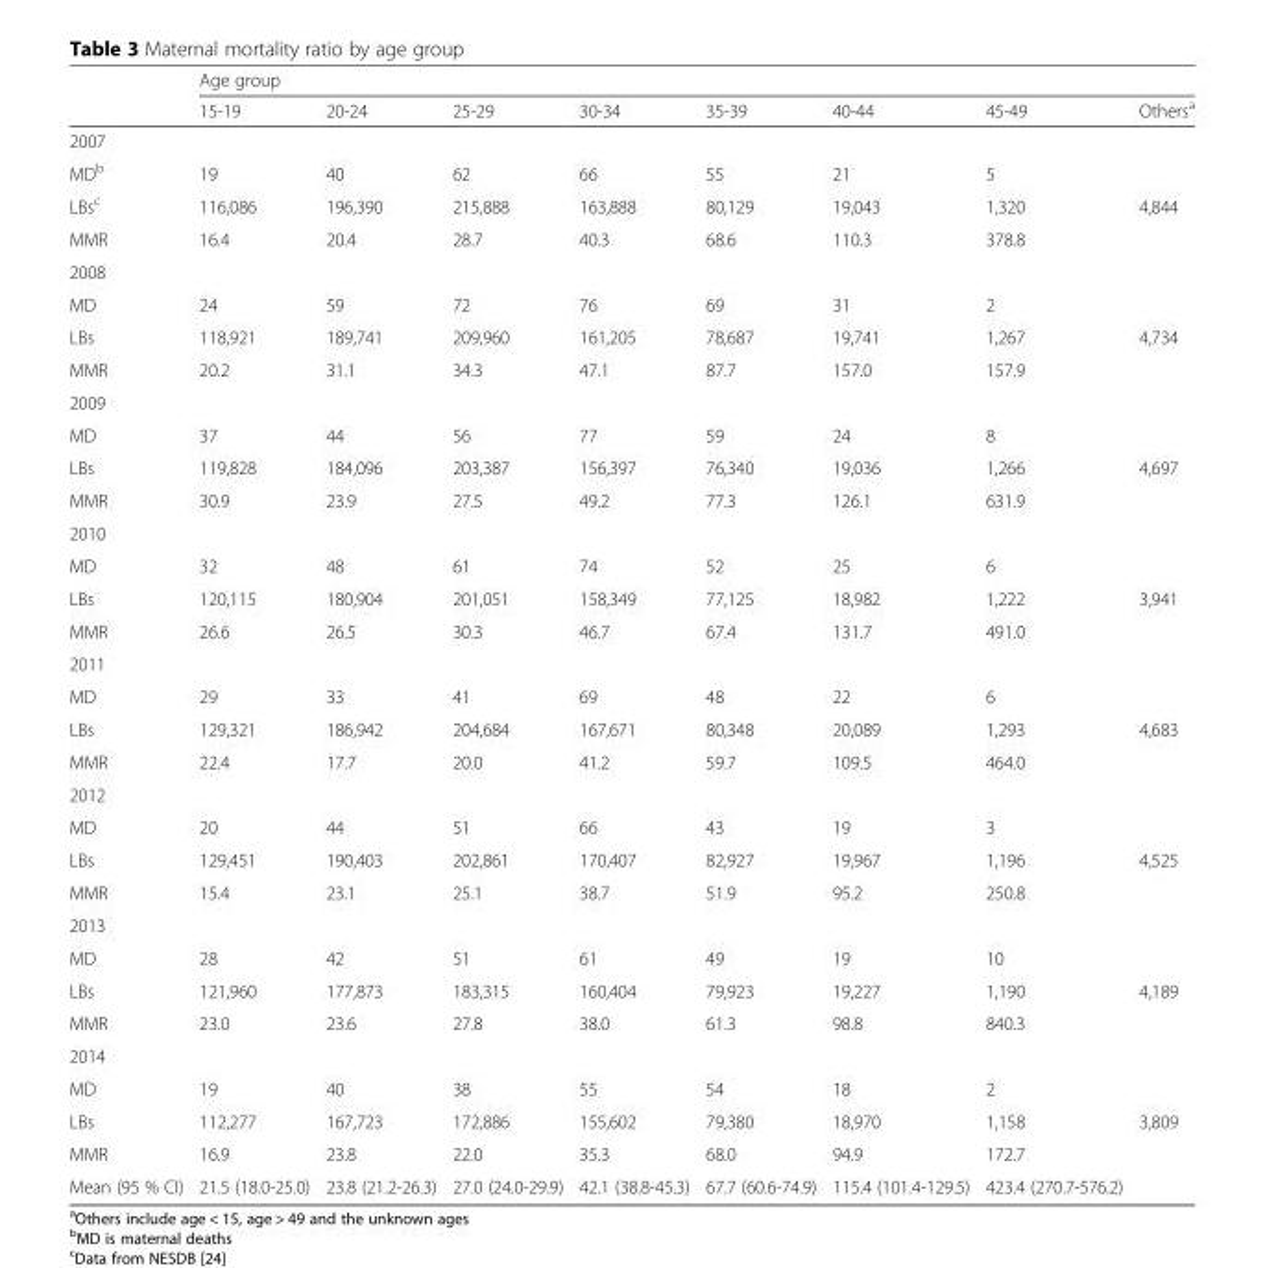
<table><thead><tr><td rowspan="2"></td><td colspan="8">Age group</td></tr><tr><td>15-19</td><td>20-24</td><td>25-29</td><td>30-34</td><td>35-39</td><td>40-44</td><td>45-49</td><td>Others<sup>a</sup></td></tr></thead><tbody><tr><td colspan="9">2007</td></tr><tr><td>MD<sup>b</sup></td><td>19</td><td>40</td><td>62</td><td>66</td><td>55</td><td>21</td><td>5</td><td></td></tr><tr><td>LBs<sup>c</sup></td><td>116,086</td><td>196,390</td><td>215,888</td><td>163,888</td><td>80,129</td><td>19,043</td><td>1,320</td><td>4,844</td></tr><tr><td>MMR</td><td>16.4</td><td>20.4</td><td>28.7</td><td>40.3</td><td>68.6</td><td>110.3</td><td>378.8</td><td></td></tr><tr><td colspan="9">2008</td></tr><tr><td>MD</td><td>24</td><td>59</td><td>72</td><td>76</td><td>69</td><td>31</td><td>2</td><td></td></tr><tr><td>LBs</td><td>118,921</td><td>189,741</td><td>209,960</td><td>161,205</td><td>78,687</td><td>19,741</td><td>1,267</td><td>4,734</td></tr><tr><td>MMR</td><td>20.2</td><td>31.1</td><td>34.3</td><td>47.1</td><td>87.7</td><td>157.0</td><td>157.9</td><td></td></tr><tr><td colspan="9">2009</td></tr><tr><td>MD</td><td>37</td><td>44</td><td>56</td><td>77</td><td>59</td><td>24</td><td>8</td><td></td></tr><tr><td>LBs</td><td>119,828</td><td>184,096</td><td>203,387</td><td>156,397</td><td>76,340</td><td>19,036</td><td>1,266</td><td>4,697</td></tr><tr><td>MMR</td><td>30.9</td><td>23.9</td><td>27.5</td><td>49.2</td><td>77.3</td><td>126.1</td><td>631.9</td><td></td></tr><tr><td colspan="9">2010</td></tr><tr><td>MD</td><td>32</td><td>48</td><td>61</td><td>74</td><td>52</td><td>25</td><td>6</td><td></td></tr><tr><td>LBs</td><td>120,115</td><td>180,904</td><td>201,051</td><td>158,349</td><td>77,125</td><td>18,982</td><td>1,222</td><td>3,941</td></tr><tr><td>MMR</td><td>26.6</td><td>26.5</td><td>30.3</td><td>46.7</td><td>67.4</td><td>131.7</td><td>491.0</td><td></td></tr><tr><td colspan="9">2011</td></tr><tr><td>MD</td><td>29</td><td>33</td><td>41</td><td>69</td><td>48</td><td>22</td><td>6</td><td></td></tr><tr><td>LBs</td><td>129,321</td><td>186,942</td><td>204,684</td><td>167,671</td><td>80,348</td><td>20,089</td><td>1,293</td><td>4,683</td></tr><tr><td>MMR</td><td>22.4</td><td>17.7</td><td>20.0</td><td>41.2</td><td>59.7</td><td>109.5</td><td>464.0</td><td></td></tr><tr><td colspan="9">2012</td></tr><tr><td>MD</td><td>20</td><td>44</td><td>51</td><td>66</td><td>43</td><td>19</td><td>3</td><td></td></tr><tr><td>LBs</td><td>129,451</td><td>190,403</td><td>202,861</td><td>170,407</td><td>82,927</td><td>19,967</td><td>1,196</td><td>4,525</td></tr><tr><td>MMR</td><td>15.4</td><td>23.1</td><td>25.1</td><td>38.7</td><td>51.9</td><td>95.2</td><td>250.8</td><td></td></tr><tr><td colspan="9">2013</td></tr><tr><td>MD</td><td>28</td><td>42</td><td>51</td><td>61</td><td>49</td><td>19</td><td>10</td><td></td></tr><tr><td>LBs</td><td>121,960</td><td>177,873</td><td>183,315</td><td>160,404</td><td>79,923</td><td>19,227</td><td>1,190</td><td>4,189</td></tr><tr><td>MMR</td><td>23.0</td><td>23.6</td><td>27.8</td><td>38.0</td><td>61.3</td><td>98.8</td><td>840.3</td><td></td></tr><tr><td colspan="9">2014</td></tr><tr><td>MD</td><td>19</td><td>40</td><td>38</td><td>55</td><td>54</td><td>18</td><td>2</td><td></td></tr><tr><td>LBs</td><td>112,277</td><td>167,723</td><td>172,886</td><td>155,602</td><td>79,380</td><td>18,970</td><td>1,158</td><td>3,809</td></tr><tr><td>MMR</td><td>16.9</td><td>23.8</td><td>22.0</td><td>35.3</td><td>68.0</td><td>94.9</td><td>172.7</td><td></td></tr><tr><td>Mean (95 % CI)</td><td>21.5 (18.0-25.0)</td><td>23.8 (21.2-26.3)</td><td>27.0 (24.0-29.9)</td><td>42.1 (38.8-45.3)</td><td>67.7 (60.6-74.9)</td><td>115.4 (101.4-129.5)</td><td>423.4 (270.7-576.2)</td><td></td></tr></tbody></table>